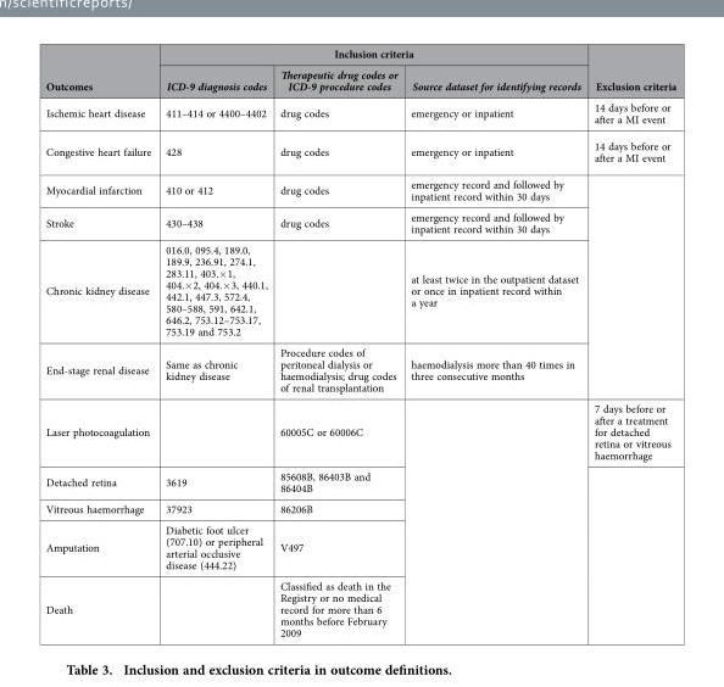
<table><thead><tr><td rowspan="2">Outcomes</td><td colspan="3">Inclusion criteria</td><td rowspan="2">Exclusion criteria</td></tr><tr><td>ICD-9 diagnosis codes</td><td>Therapeutic drug codes or ICD-9 procedure codes</td><td>Source dataset for identifying records</td></tr></thead><tbody><tr><td>Ischemic heart disease</td><td>411–414 or 4400–4402</td><td>drug codes</td><td>emergency or inpatient</td><td>14 days before or after a MI event</td></tr><tr><td>Congestive heart failure</td><td>428</td><td>drug codes</td><td>emergency or inpatient</td><td>14 days before or after a MI event</td></tr><tr><td>Myocardial infarction</td><td>410 or 412</td><td>drug codes</td><td>emergency record and followed by inpatient record within 30 days</td><td></td></tr><tr><td>Stroke</td><td>430–438</td><td>drug codes</td><td>emergency record and followed by inpatient record within 30 days</td><td></td></tr><tr><td>Chronic kidney disease</td><td>016.0, 095.4, 189.0, 189.9, 236.91, 274.1, 283.11, 403.× 1, 404.× 2, 404.× 3, 440.1, 442.1, 447.3, 572.4, 580–588, 591, 642.1, 646.2, 753.12–753.17, 753.19 and 753.2</td><td></td><td>at least twice in the outpatient dataset or once in inpatient record within a year</td><td></td></tr><tr><td>End-stage renal disease</td><td>Same as chronic kidney disease</td><td>Procedure codes of peritoneal dialysis or haemodialysis; drug codes of renal transplantation</td><td>haemodialysis more than 40 times in three consecutive months</td><td></td></tr><tr><td>Laser photocoagulation</td><td></td><td>60005C or 60006C</td><td rowspan="5"></td><td>7 days before or after a treatment for detached retina or vitreous haemorrhage</td></tr><tr><td>Detached retina</td><td>3619</td><td>85608B, 86403B and 86404B</td><td rowspan="4"></td></tr><tr><td>Vitreous haemorrhage</td><td>37923</td><td>86206B</td></tr><tr><td>Amputation</td><td>Diabetic foot ulcer (707.10) or peripheral arterial occlusive disease (444.22)</td><td>V497</td></tr><tr><td>Death</td><td></td><td>Classified as death in the Registry or no medical record for more than 6 months before February 2009</td></tr></tbody></table>